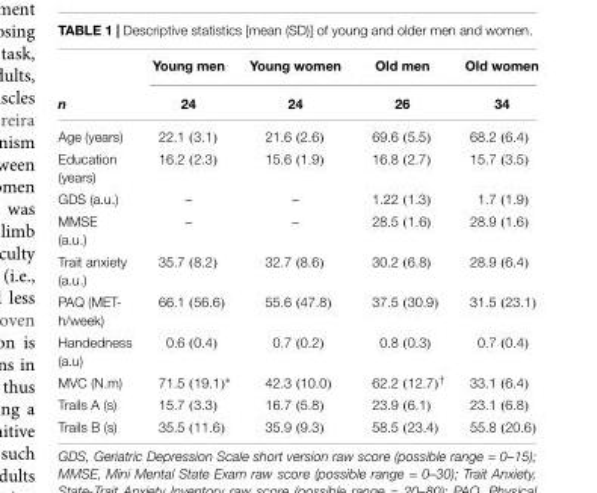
<table><thead><tr><td rowspan="2">n</td><td rowspan="2">Young men 24</td><td rowspan="2">Young women 24</td><td rowspan="2">Old men 26</td><td rowspan="2">Old women 34</td></tr><tr></tr></thead><tbody><tr><td>Age (years)</td><td>22.1 (3.1)</td><td>21.6 (2.6)</td><td>69.6 (5.5)</td><td>68.2 (6.4)</td></tr><tr><td>Education (years)</td><td>16.2 (2.3)</td><td>15.6 (1.9)</td><td>16.8 (2.7)</td><td>15.7 (3.5)</td></tr><tr><td>GDS (a.u.)</td><td>–</td><td>–</td><td>1.22 (1.3)</td><td>1.7 (1.9)</td></tr><tr><td>MMSE (a.u.)</td><td>–</td><td>–</td><td>28.5 (1.6)</td><td>28.9 (1.6)</td></tr><tr><td>Trait anxiety (a.u.)</td><td>35.7 (8.2)</td><td>32.7 (8.6)</td><td>30.2 (6.8)</td><td>28.9 (6.4)</td></tr><tr><td>PAQ (MET- h/week)</td><td>66.1 (56.6)</td><td>55.6 (47.8)</td><td>37.5 (30.9)</td><td>31.5 (23.1)</td></tr><tr><td>Handedness (a.u)</td><td>0.6 (0.4)</td><td>0.7 (0.2)</td><td>0.8 (0.3)</td><td>0.7 (0.4)</td></tr><tr><td>MVC (N.m)</td><td>71.5 (19.1)∗</td><td>42.3 (10.0)</td><td>62.2 (12.7)<sup>†</sup></td><td>33.1 (6.4)</td></tr><tr><td>Trails A (s)</td><td>15.7 (3.3)</td><td>16.7 (5.8)</td><td>23.9 (6.1)</td><td>23.1 (6.8)</td></tr><tr><td>Trails B (s)</td><td>35.5 (11.6)</td><td>35.9 (9.3)</td><td>58.5 (23.4)</td><td>55.8 (20.6)</td></tr></tbody></table>